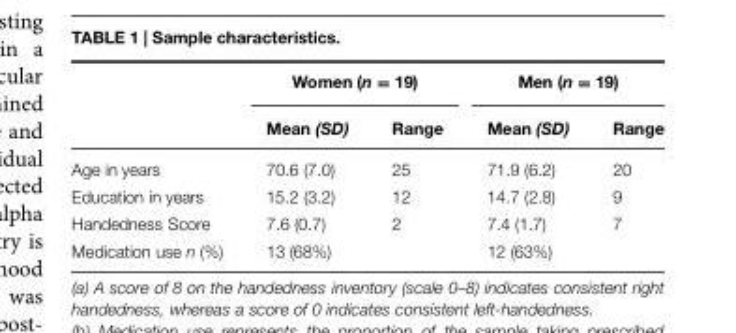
<table><thead><tr><td rowspan="2"></td><td colspan="2">Women (n = 19)</td><td colspan="2">Men (n = 19)</td></tr><tr><td>Mean (SD)</td><td>Range</td><td>Mean (SD)</td><td>Range</td></tr></thead><tbody><tr><td>Age in years</td><td>70.6 (7.0)</td><td>25</td><td>71.9 (6.2)</td><td>20</td></tr><tr><td>Education in years</td><td>15.2 (3.2)</td><td>12</td><td>14.7 (2.8)</td><td>9</td></tr><tr><td>Handedness Score</td><td>7.6 (0.7)</td><td>2</td><td>7.4 (1.7)</td><td>7</td></tr><tr><td>Medication use n (%)</td><td>13 (68%)</td><td></td><td>12 (63%)</td><td></td></tr></tbody></table>